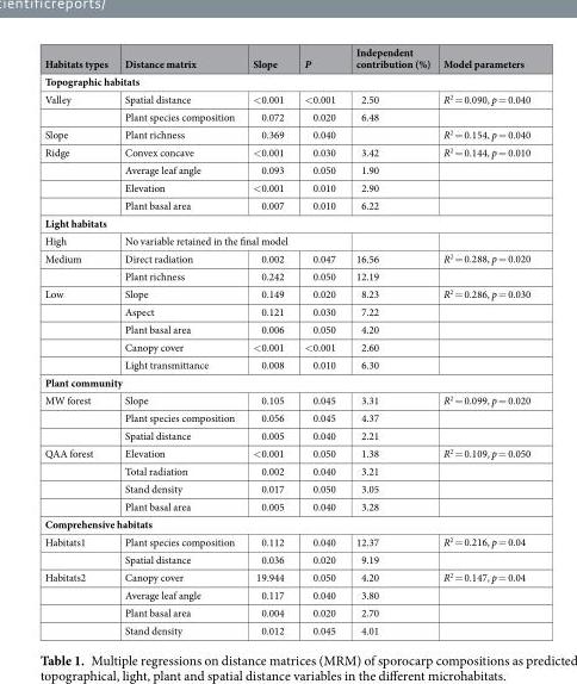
<table><thead><tr><td>Habitats types</td><td>Distance matrix</td><td>Slope</td><td>P</td><td>Independent contribution (%)</td><td>Model parameters</td></tr></thead><tbody><tr><td colspan="6">Topographic habitats</td></tr><tr><td rowspan="2">Valley</td><td>Spatial distance</td><td>&lt;0.001</td><td>&lt;0.001</td><td>2.50</td><td>R<sup>2</sup> = 0.090, p = 0.040</td></tr><tr><td>Plant species composition</td><td>0.072</td><td>0.020</td><td>6.48</td><td></td></tr><tr><td>Slope</td><td>Plant richness</td><td>0.369</td><td>0.040</td><td></td><td>R<sup>2</sup> = 0.154, p = 0.040</td></tr><tr><td rowspan="4">Ridge</td><td>Convex concave</td><td>&lt;0.001</td><td>0.030</td><td>3.42</td><td>R<sup>2</sup> = 0.144, p = 0.010</td></tr><tr><td>Average leaf angle</td><td>0.093</td><td>0.050</td><td>1.90</td><td></td></tr><tr><td>Elevation</td><td>&lt;0.001</td><td>0.010</td><td>2.90</td><td></td></tr><tr><td>Plant basal area</td><td>0.007</td><td>0.010</td><td>6.22</td><td></td></tr><tr><td colspan="6">Light habitats</td></tr><tr><td>High</td><td colspan="3">No variable retained in the final model</td><td></td><td></td></tr><tr><td rowspan="2">Medium</td><td>Direct radiation</td><td>0.002</td><td>0.047</td><td>16.56</td><td>R<sup>2</sup> = 0.288, p = 0.020</td></tr><tr><td>Plant richness</td><td>0.242</td><td>0.050</td><td>12.19</td><td></td></tr><tr><td rowspan="5">Low</td><td>Slope</td><td>0.149</td><td>0.020</td><td>8.23</td><td>R<sup>2</sup> = 0.286, p = 0.030</td></tr><tr><td>Aspect</td><td>0.121</td><td>0.030</td><td>7.22</td><td></td></tr><tr><td>Plant basal area</td><td>0.006</td><td>0.050</td><td>4.20</td><td></td></tr><tr><td>Canopy cover</td><td>&lt;0.001</td><td>&lt;0.001</td><td>2.60</td><td></td></tr><tr><td>Light transmittance</td><td>0.008</td><td>0.010</td><td>6.30</td><td></td></tr><tr><td colspan="6">Plant community</td></tr><tr><td rowspan="3">MW forest</td><td>Slope</td><td>0.105</td><td>0.045</td><td>3.31</td><td>R<sup>2</sup> = 0.099, p = 0.020</td></tr><tr><td>Plant species composition</td><td>0.056</td><td>0.045</td><td>4.37</td><td></td></tr><tr><td>Spatial distance</td><td>0.005</td><td>0.040</td><td>2.21</td><td></td></tr><tr><td rowspan="4">QAA forest</td><td>Elevation</td><td>&lt;0.001</td><td>0.050</td><td>1.38</td><td>R<sup>2</sup> = 0.109, p = 0.050</td></tr><tr><td>Total radiation</td><td>0.002</td><td>0.040</td><td>3.21</td><td></td></tr><tr><td>Stand density</td><td>0.017</td><td>0.050</td><td>3.05</td><td></td></tr><tr><td>Plant basal area</td><td>0.005</td><td>0.040</td><td>3.28</td><td></td></tr><tr><td colspan="6">Comprehensive habitats</td></tr><tr><td rowspan="2">Habitats1</td><td>Plant species composition</td><td>0.112</td><td>0.040</td><td>12.37</td><td>R<sup>2</sup> = 0.216, p = 0.04</td></tr><tr><td>Spatial distance</td><td>0.036</td><td>0.020</td><td>9.19</td><td></td></tr><tr><td rowspan="4">Habitats2</td><td>Canopy cover</td><td>19.944</td><td>0.050</td><td>4.20</td><td>R<sup>2</sup> = 0.147, p = 0.04</td></tr><tr><td>Average leaf angle</td><td>0.117</td><td>0.040</td><td>3.80</td><td></td></tr><tr><td>Plant basal area</td><td>0.004</td><td>0.020</td><td>2.70</td><td></td></tr><tr><td>Stand density</td><td>0.012</td><td>0.045</td><td>4.01</td><td></td></tr></tbody></table>